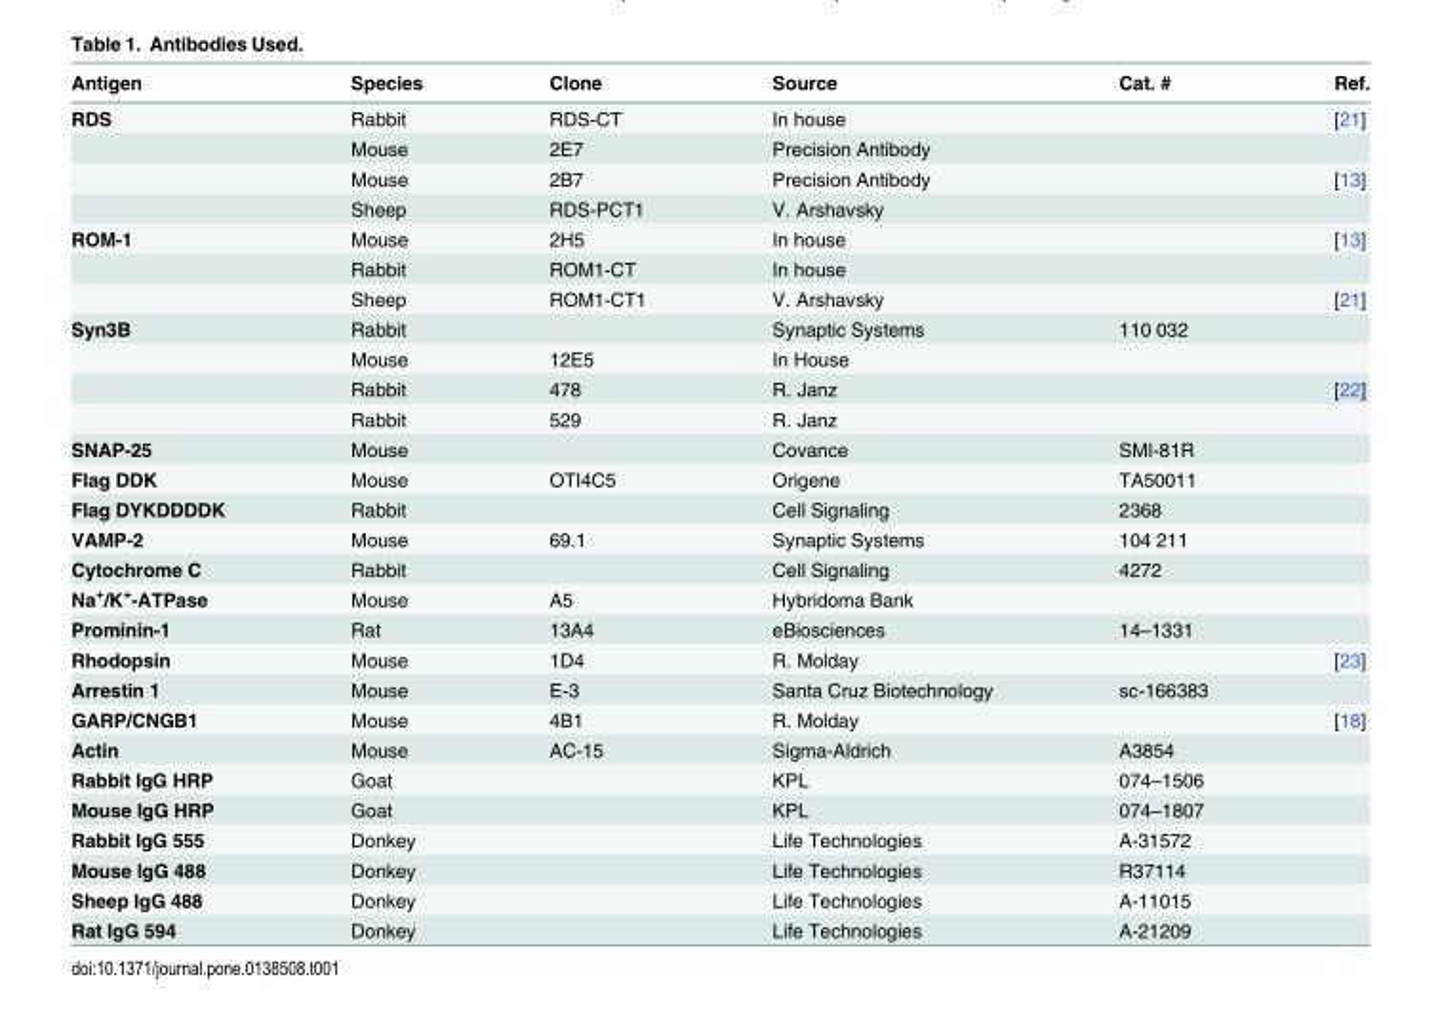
<table><thead><tr><td>Antigen</td><td>Species</td><td>Clone</td><td>Source</td><td>Cat. #</td><td>Ref.</td></tr></thead><tbody><tr><td rowspan="4">RDS</td><td>Rabbit</td><td>RDS-CT</td><td>In house</td><td></td><td>[21]</td></tr><tr><td>Mouse</td><td>2E7</td><td>Precision Antibody</td><td></td><td></td></tr><tr><td>Mouse</td><td>2B7</td><td>Precision Antibody</td><td></td><td>[13]</td></tr><tr><td>Sheep</td><td>RDS-PCT1</td><td>V. Arshavsky</td><td></td><td></td></tr><tr><td rowspan="3">ROM-1</td><td>Mouse</td><td>2H5</td><td>In house</td><td></td><td>[13]</td></tr><tr><td>Rabbit</td><td>ROM1-CT</td><td>In house</td><td></td><td></td></tr><tr><td>Sheep</td><td>ROM1-CT1</td><td>V. Arshavsky</td><td></td><td>[21]</td></tr><tr><td rowspan="4">Syn3B</td><td>Rabbit</td><td></td><td>Synaptic Systems</td><td>110 032</td><td></td></tr><tr><td>Mouse</td><td>12E5</td><td>In House</td><td></td><td></td></tr><tr><td>Rabbit</td><td>478</td><td>R. Janz</td><td></td><td>[22]</td></tr><tr><td>Rabbit</td><td>529</td><td>R. Janz</td><td></td><td></td></tr><tr><td>SNAP-25</td><td>Mouse</td><td></td><td>Covance</td><td>SMI-81R</td><td></td></tr><tr><td>Flag DDK</td><td>Mouse</td><td>OTI4C5</td><td>Origene</td><td>TA50011</td><td></td></tr><tr><td>Flag DYKDDDDK</td><td>Rabbit</td><td></td><td>Cell Signaling</td><td>2368</td><td></td></tr><tr><td>VAMP-2</td><td>Mouse</td><td>69.1</td><td>Synaptic Systems</td><td>104 211</td><td></td></tr><tr><td>Cytochrome C</td><td>Rabbit</td><td></td><td>Cell Signaling</td><td>4272</td><td></td></tr><tr><td>Na<sup>+</sup>/K<sup>+</sup>-ATPase</td><td>Mouse</td><td>A5</td><td>Hybridoma Bank</td><td></td><td></td></tr><tr><td>Prominin-1</td><td>Rat</td><td>13A4</td><td>eBiosciences</td><td>14–1331</td><td></td></tr><tr><td>Rhodopsin</td><td>Mouse</td><td>1D4</td><td>R. Molday</td><td></td><td>[23]</td></tr><tr><td>Arrestin 1</td><td>Mouse</td><td>E-3</td><td>Santa Cruz Biotechnology</td><td>sc-166383</td><td></td></tr><tr><td>GARP/CNGB1</td><td>Mouse</td><td>4B1</td><td>R. Molday</td><td></td><td>[18]</td></tr><tr><td>Actin</td><td>Mouse</td><td>AC-15</td><td>Sigma-Aldrich</td><td>A3854</td><td></td></tr><tr><td>Rabbit IgG HRP</td><td>Goat</td><td></td><td>KPL</td><td>074–1506</td><td></td></tr><tr><td>Mouse IgG HRP</td><td>Goat</td><td></td><td>KPL</td><td>074–1807</td><td></td></tr><tr><td>Rabbit IgG 555</td><td>Donkey</td><td></td><td>Life Technologies</td><td>A-31572</td><td></td></tr><tr><td>Mouse IgG 488</td><td>Donkey</td><td></td><td>Life Technologies</td><td>R37114</td><td></td></tr><tr><td>Sheep IgG 488</td><td>Donkey</td><td></td><td>Life Technologies</td><td>A-11015</td><td></td></tr><tr><td>Rat IgG 594</td><td>Donkey</td><td></td><td>Life Technologies</td><td>A-21209</td><td></td></tr></tbody></table>